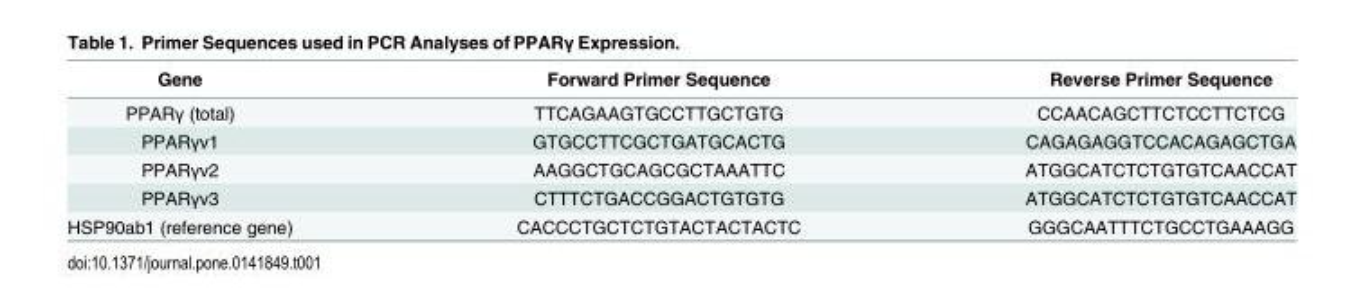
<table><thead><tr><td>Gene</td><td>Forward Primer Sequence</td><td>Reverse Primer Sequence</td></tr></thead><tbody><tr><td>PPARγ (total)</td><td>TTCAGAAGTGCCTTGCTGTG</td><td>CCAACAGCTTCTCCTTCTCG</td></tr><tr><td>PPARγv1</td><td>GTGCCTTCGCTGATGCACTG</td><td>CAGAGAGGTCCACAGAGCTGA</td></tr><tr><td>PPARγv2</td><td>AAGGCTGCAGCGCTAAATTC</td><td>ATGGCATCTCTGTGTCAACCAT</td></tr><tr><td>PPARγv3</td><td>CTTTCTGACCGGACTGTGTG</td><td>ATGGCATCTCTGTGTCAACCAT</td></tr><tr><td>HSP90ab1 (reference gene)</td><td>CACCCTGCTCTGTACTACTACTC</td><td>GGGCAATTTCTGCCTGAAAGG</td></tr></tbody></table>